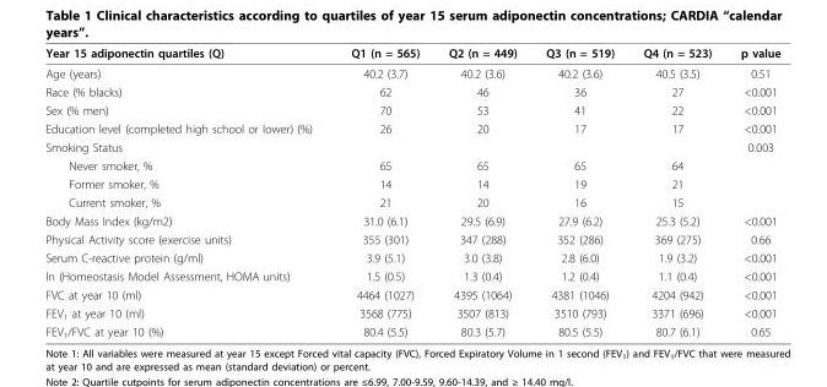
<table><thead><tr><td>Year 15 adiponectin quartiles (Q)</td><td>Q1 (n = 565)</td><td>Q2 (n = 449)</td><td>Q3 (n = 519)</td><td>Q4 (n = 523)</td><td>p value</td></tr></thead><tbody><tr><td>Age (years)</td><td>40.2 (3.7)</td><td>40.2 (3.6)</td><td>40.2 (3.6)</td><td>40.5 (3.5)</td><td>0.51</td></tr><tr><td>Race (% blacks)</td><td>62</td><td>46</td><td>36</td><td>27</td><td>&lt;0.001</td></tr><tr><td>Sex (% men)</td><td>70</td><td>53</td><td>41</td><td>22</td><td>&lt;0.001</td></tr><tr><td>Education level (completed high school or lower) (%)</td><td>26</td><td>20</td><td>17</td><td>17</td><td>&lt;0.001</td></tr><tr><td>Smoking Status</td><td></td><td></td><td></td><td></td><td>0.003</td></tr><tr><td>Never smoker, %</td><td>65</td><td>65</td><td>65</td><td>64</td><td></td></tr><tr><td>Former smoker, %</td><td>14</td><td>14</td><td>19</td><td>21</td><td></td></tr><tr><td>Current smoker, %</td><td>21</td><td>20</td><td>16</td><td>15</td><td></td></tr><tr><td>Body Mass Index (kg/m2)</td><td>31.0 (6.1)</td><td>29.5 (6.9)</td><td>27.9 (6.2)</td><td>25.3 (5.2)</td><td>&lt;0.001</td></tr><tr><td>Physical Activity score (exercise units)</td><td>355 (301)</td><td>347 (288)</td><td>352 (286)</td><td>369 (275)</td><td>0.66</td></tr><tr><td>Serum C-reactive protein (g/ml)</td><td>3.9 (5.1)</td><td>3.0 (3.8)</td><td>2.8 (6.0)</td><td>1.9 (3.2)</td><td>&lt;0.001</td></tr><tr><td>ln (Homeostasis Model Assessment, HOMA units)</td><td>1.5 (0.5)</td><td>1.3 (0.4)</td><td>1.2 (0.4)</td><td>1.1 (0.4)</td><td>&lt;0.001</td></tr><tr><td>FVC at year 10 (ml)</td><td>4464 (1027)</td><td>4395 (1064)</td><td>4381 (1046)</td><td>4204 (942)</td><td>&lt;0.001</td></tr><tr><td>FEV<sub>1</sub> at year 10 (ml)</td><td>3568 (775)</td><td>3507 (813)</td><td>3510 (793)</td><td>3371 (696)</td><td>&lt;0.001</td></tr><tr><td>FEV<sub>1</sub>/FVC at year 10 (%)</td><td>80.4 (5.5)</td><td>80.3 (5.7)</td><td>80.5 (5.5)</td><td>80.7 (6.1)</td><td>0.65</td></tr></tbody></table>